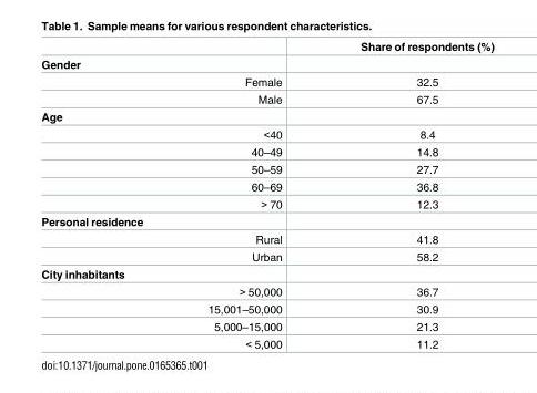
<table><thead><tr><td></td><td>Share of respondents (%)</td></tr></thead><tbody><tr><td colspan="2">Gender</td></tr><tr><td>Female</td><td>32.5</td></tr><tr><td>Male</td><td>67.5</td></tr><tr><td colspan="2">Age</td></tr><tr><td>&lt;40</td><td>8.4</td></tr><tr><td>40–49</td><td>14.8</td></tr><tr><td>50–59</td><td>27.7</td></tr><tr><td>60–69</td><td>36.8</td></tr><tr><td>&gt; 70</td><td>12.3</td></tr><tr><td colspan="2">Personal residence</td></tr><tr><td>Rural</td><td>41.8</td></tr><tr><td>Urban</td><td>58.2</td></tr><tr><td colspan="2">City inhabitants</td></tr><tr><td>&gt; 50,000</td><td>36.7</td></tr><tr><td>15,001–50,000</td><td>30.9</td></tr><tr><td>5,000–15,000</td><td>21.3</td></tr><tr><td>&lt; 5,000</td><td>11.2</td></tr></tbody></table>